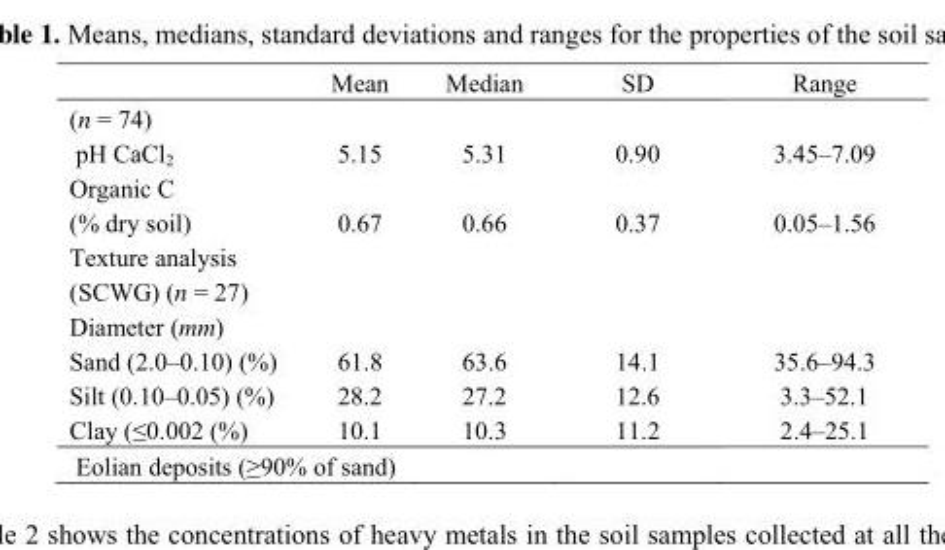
<table><thead><tr><td></td><td>Mean</td><td>Median</td><td>SD</td><td>Range</td></tr></thead><tbody><tr><td>(n = 74) pH CaCl<sub>2</sub></td><td>5.15</td><td>5.31</td><td>0.90</td><td>3.45–7.09</td></tr><tr><td>Organic C (% dry soil)</td><td>0.67</td><td>0.66</td><td>0.37</td><td>0.05–1.56</td></tr><tr><td colspan="5">Texture analysis (SCWG) (n = 27)</td></tr><tr><td colspan="5">Diameter (mm)</td></tr><tr><td>Sand (2.0–0.10) (%)</td><td>61.8</td><td>63.6</td><td>14.1</td><td>35.6–94.3</td></tr><tr><td>Silt (0.10–0.05) (%)</td><td>28.2</td><td>27.2</td><td>12.6</td><td>3.3–52.1</td></tr><tr><td>Clay (≤0.002 (%)</td><td>10.1</td><td>10.3</td><td>11.2</td><td>2.4–25.1</td></tr><tr><td colspan="5">Eolian deposits (≥90% of sand)</td></tr></tbody></table>